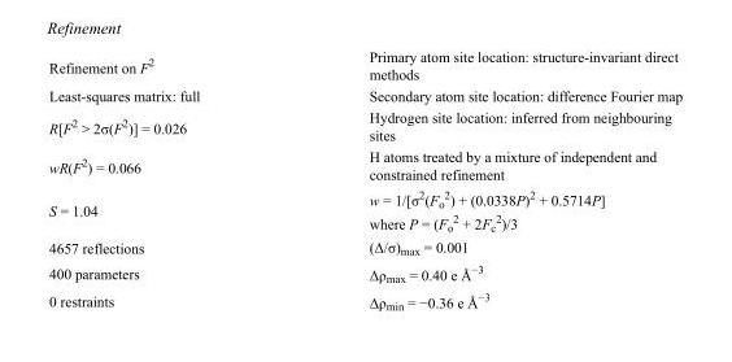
<table><tbody><tr><td>Refinement on F<sup>2</sup></td><td>Primary atom site location: structure-invariant direct methods</td></tr><tr><td>Least-squares matrix: full</td><td>Secondary atom site location: difference Fourier map</td></tr><tr><td>R[F<sup>2</sup> &gt; 2σ(F<sup>2</sup>)] = 0.026</td><td>Hydrogen site location: inferred from neighbouring sites</td></tr><tr><td>wR(F<sup>2</sup>) = 0.066</td><td>H atoms treated by a mixture of independent and constrained refinement</td></tr><tr><td>S = 1.04</td><td>w = 1/[σ<sup>2</sup>(F<sub>o</sub> <sup>2</sup>) + (0.0338P)<sup>2</sup> + 0.5714P] where P = (F<sub>o</sub> <sup>2</sup> + 2F<sub>c</sub> <sup>2</sup>)/3</td></tr><tr><td>4657 reflections</td><td>(Δ/σ)<sub>max</sub> = 0.001</td></tr><tr><td>400 parameters</td><td>Δρ<sub>max</sub> = 0.40 e Å<sup>−3</sup></td></tr><tr><td>0 restraints</td><td>Δρ<sub>min</sub> = −0.36 e Å<sup>−3</sup></td></tr></tbody></table>